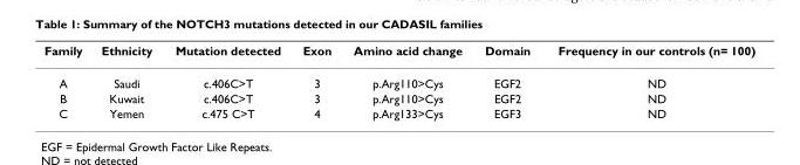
<table><thead><tr><td>Family</td><td>Ethnicity</td><td>Mutation detected</td><td>Exon</td><td>Amino acid change</td><td>Domain</td><td>Frequency in our controls (n= 100)</td></tr></thead><tbody><tr><td>A</td><td>Saudi</td><td>c.406C&gt;T</td><td>3</td><td>p.Arg110&gt;Cys</td><td>EGF2</td><td>ND</td></tr><tr><td>B</td><td>Kuwait</td><td>c.406C&gt;T</td><td>3</td><td>p.Arg110&gt;Cys</td><td>EGF2</td><td>ND</td></tr><tr><td>C</td><td>Yemen</td><td>c.475 C&gt;T</td><td>4</td><td>p.Arg133&gt;Cys</td><td>EGF3</td><td>ND</td></tr></tbody></table>